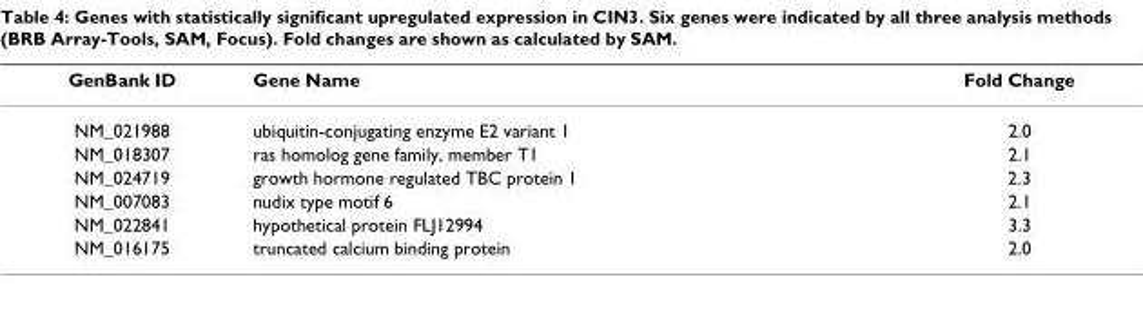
<table><thead><tr><td>GenBank ID</td><td>Gene Name</td><td>Fold Change</td></tr></thead><tbody><tr><td>NM_021988</td><td>ubiquitin-conjugating enzyme E2 variant 1</td><td>2.0</td></tr><tr><td>NM_018307</td><td>ras homolog gene family, member T1</td><td>2.1</td></tr><tr><td>NM_024719</td><td>growth hormone regulated TBC protein 1</td><td>2.3</td></tr><tr><td>NM_007083</td><td>nudix type motif 6</td><td>2.1</td></tr><tr><td>NM_022841</td><td>hypothetical protein FLJ12994</td><td>3.3</td></tr><tr><td>NM_016175</td><td>truncated calcium binding protein</td><td>2.0</td></tr></tbody></table>